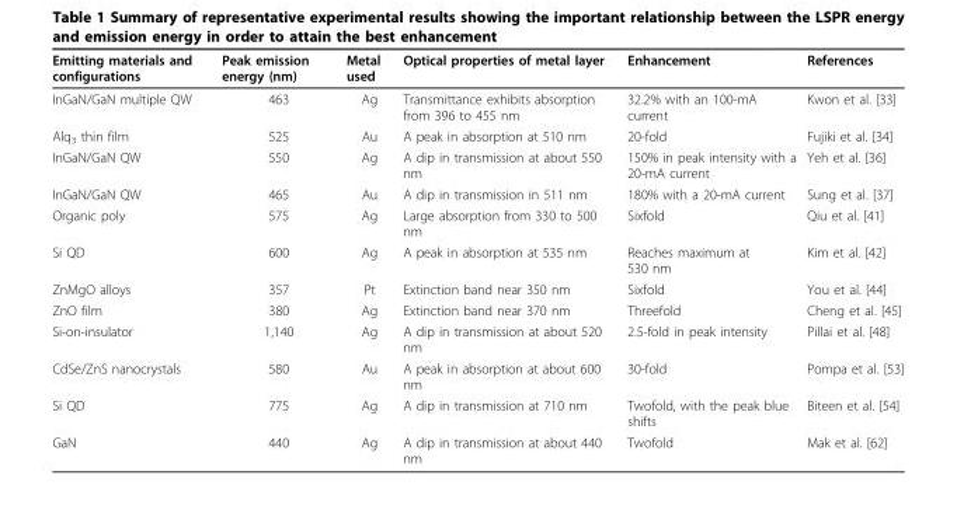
<table><thead><tr><td>Emitting materials and configurations</td><td>Peak emission energy (nm)</td><td>Metal used</td><td>Optical properties of metal layer</td><td>Enhancement</td><td>References</td></tr></thead><tbody><tr><td>InGaN/GaN multiple QW</td><td>463</td><td>Ag</td><td>Transmittance exhibits absorption from 396 to 455 nm</td><td>32.2% with an 100-mA current</td><td>Kwon et al. [33]</td></tr><tr><td>Alq<sub>3</sub> thin film</td><td>525</td><td>Au</td><td>A peak in absorption at 510 nm</td><td>20-fold</td><td>Fujiki et al. [34]</td></tr><tr><td>InGaN/GaN QW</td><td>550</td><td>Ag</td><td>A dip in transmission at about 550 nm</td><td>150% in peak intensity with a 20-mA current</td><td>Yeh et al. [36]</td></tr><tr><td>InGaN/GaN QW</td><td>465</td><td>Au</td><td>A dip in transmission in 511 nm</td><td>180% with a 20-mA current</td><td>Sung et al. [37]</td></tr><tr><td>Organic poly</td><td>575</td><td>Ag</td><td>Large absorption from 330 to 500 nm</td><td>Sixfold</td><td>Qiu et al. [41]</td></tr><tr><td>Si QD</td><td>600</td><td>Ag</td><td>A peak in absorption at 535 nm</td><td>Reaches maximum at 530 nm</td><td>Kim et al. [42]</td></tr><tr><td>ZnMgO alloys</td><td>357</td><td>Pt</td><td>Extinction band near 350 nm</td><td>Sixfold</td><td>You et al. [44]</td></tr><tr><td>ZnO film</td><td>380</td><td>Ag</td><td>Extinction band near 370 nm</td><td>Threefold</td><td>Cheng et al. [45]</td></tr><tr><td>Si-on-insulator</td><td>1,140</td><td>Ag</td><td>A dip in transmission at about 520 nm</td><td>2.5-fold in peak intensity</td><td>Pillai et al. [48]</td></tr><tr><td>CdSe/ZnS nanocrystals</td><td>580</td><td>Au</td><td>A peak in absorption at about 600 nm</td><td>30-fold</td><td>Pompa et al. [53]</td></tr><tr><td>Si QD</td><td>775</td><td>Ag</td><td>A dip in transmission at 710 nm</td><td>Twofold, with the peak blue shifts</td><td>Biteen et al. [54]</td></tr><tr><td>GaN</td><td>440</td><td>Ag</td><td>A dip in transmission at about 440 nm</td><td>Twofold</td><td>Mak et al. [62]</td></tr></tbody></table>